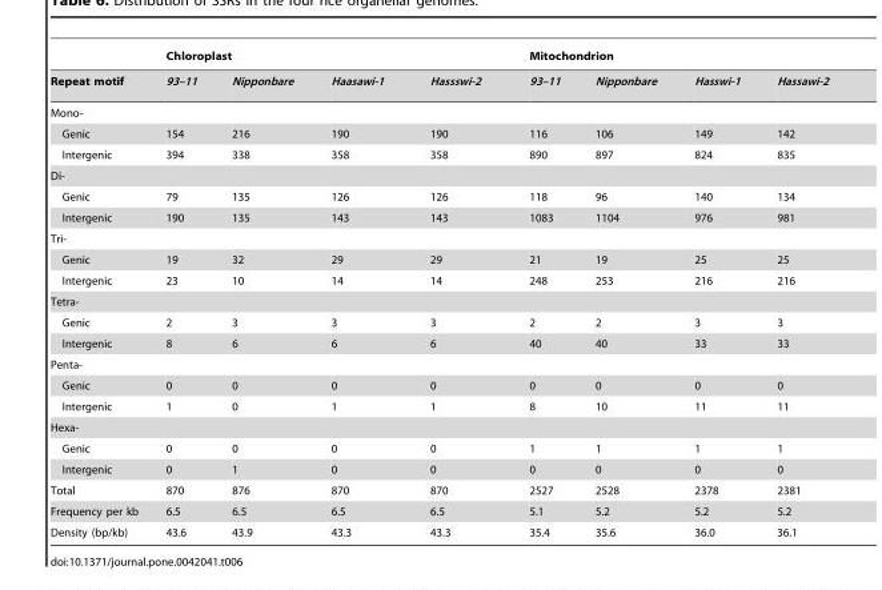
<table><thead><tr><td rowspan="2">Repeat motif</td><td colspan="4">Chloroplast</td><td colspan="4">Mitochondrion</td></tr><tr><td>93–11</td><td>Nipponbare</td><td>Haasawi-1</td><td>Hassswi-2</td><td>93–11</td><td>Nipponbare</td><td>Hasswi-1</td><td>Hassawi-2</td></tr></thead><tbody><tr><td colspan="9">Mono-</td></tr><tr><td>Genic</td><td>154</td><td>216</td><td>190</td><td>190</td><td>116</td><td>106</td><td>149</td><td>142</td></tr><tr><td>Intergenic</td><td>394</td><td>338</td><td>358</td><td>358</td><td>890</td><td>897</td><td>824</td><td>835</td></tr><tr><td colspan="9">Di-</td></tr><tr><td>Genic</td><td>79</td><td>135</td><td>126</td><td>126</td><td>118</td><td>96</td><td>140</td><td>134</td></tr><tr><td>Intergenic</td><td>190</td><td>135</td><td>143</td><td>143</td><td>1083</td><td>1104</td><td>976</td><td>981</td></tr><tr><td colspan="9">Tri-</td></tr><tr><td>Genic</td><td>19</td><td>32</td><td>29</td><td>29</td><td>21</td><td>19</td><td>25</td><td>25</td></tr><tr><td>Intergenic</td><td>23</td><td>10</td><td>14</td><td>14</td><td>248</td><td>253</td><td>216</td><td>216</td></tr><tr><td colspan="9">Tetra-</td></tr><tr><td>Genic</td><td>2</td><td>3</td><td>3</td><td>3</td><td>2</td><td>2</td><td>3</td><td>3</td></tr><tr><td>Intergenic</td><td>8</td><td>6</td><td>6</td><td>6</td><td>40</td><td>40</td><td>33</td><td>33</td></tr><tr><td colspan="9">Penta-</td></tr><tr><td>Genic</td><td>0</td><td>0</td><td>0</td><td>0</td><td>0</td><td>0</td><td>0</td><td>0</td></tr><tr><td>Intergenic</td><td>1</td><td>0</td><td>1</td><td>1</td><td>8</td><td>10</td><td>11</td><td>11</td></tr><tr><td colspan="9">Hexa-</td></tr><tr><td>Genic</td><td>0</td><td>0</td><td>0</td><td>0</td><td>1</td><td>1</td><td>1</td><td>1</td></tr><tr><td>Intergenic</td><td>0</td><td>1</td><td>0</td><td>0</td><td>0</td><td>0</td><td>0</td><td>0</td></tr><tr><td>Total</td><td>870</td><td>876</td><td>870</td><td>870</td><td>2527</td><td>2528</td><td>2378</td><td>2381</td></tr><tr><td>Frequency per kb</td><td>6.5</td><td>6.5</td><td>6.5</td><td>6.5</td><td>5.1</td><td>5.2</td><td>5.2</td><td>5.2</td></tr><tr><td>Density (bp/kb)</td><td>43.6</td><td>43.9</td><td>43.3</td><td>43.3</td><td>35.4</td><td>35.6</td><td>36.0</td><td>36.1</td></tr></tbody></table>